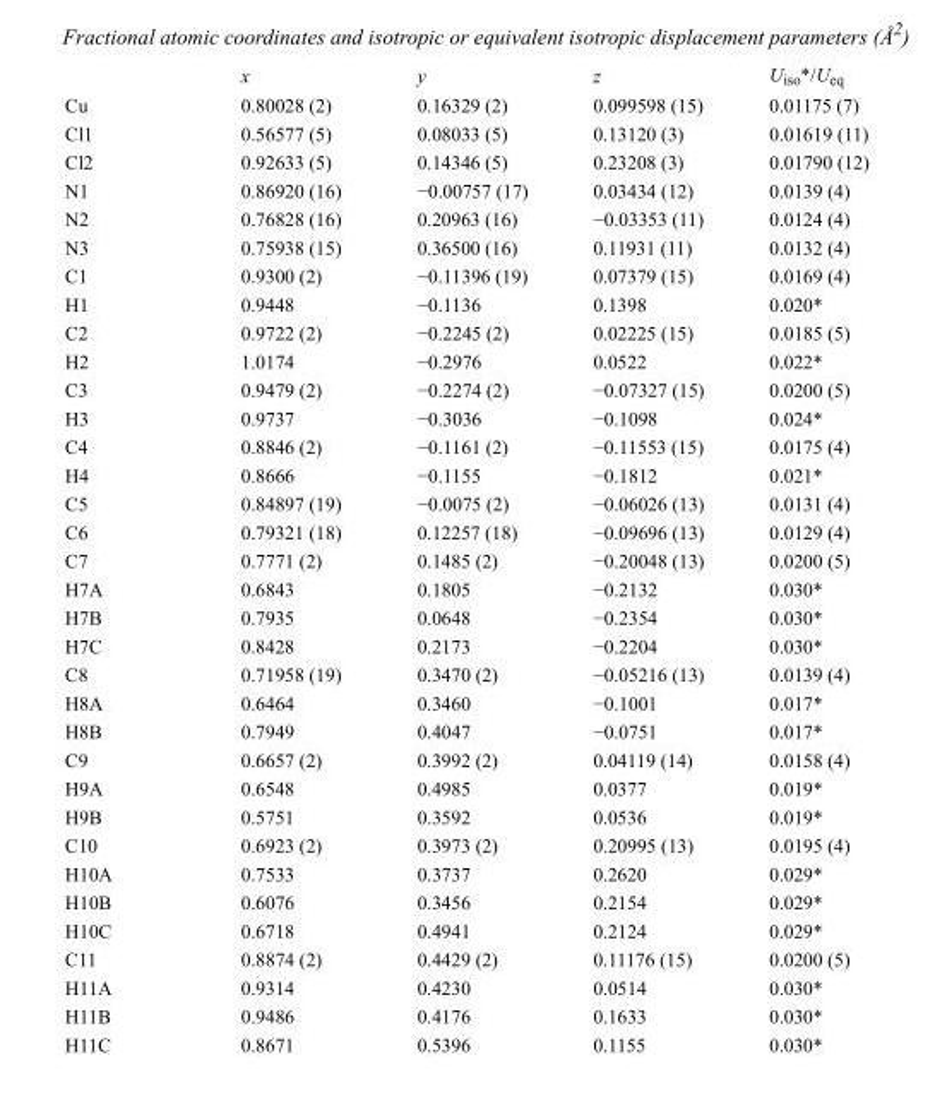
<table><thead><tr><td></td><td>x</td><td>y</td><td>z</td><td>U<sub>iso</sub>*/U<sub>eq</sub></td></tr></thead><tbody><tr><td>Cu</td><td>0.80028 (2)</td><td>0.16329 (2)</td><td>0.099598 (15)</td><td>0.01175 (7)</td></tr><tr><td>Cl1</td><td>0.56577 (5)</td><td>0.08033 (5)</td><td>0.13120 (3)</td><td>0.01619 (11)</td></tr><tr><td>Cl2</td><td>0.92633 (5)</td><td>0.14346 (5)</td><td>0.23208 (3)</td><td>0.01790 (12)</td></tr><tr><td>N1</td><td>0.86920 (16)</td><td>−0.00757 (17)</td><td>0.03434 (12)</td><td>0.0139 (4)</td></tr><tr><td>N2</td><td>0.76828 (16)</td><td>0.20963 (16)</td><td>−0.03353 (11)</td><td>0.0124 (4)</td></tr><tr><td>N3</td><td>0.75938 (15)</td><td>0.36500 (16)</td><td>0.11931 (11)</td><td>0.0132 (4)</td></tr><tr><td>C1</td><td>0.9300 (2)</td><td>−0.11396 (19)</td><td>0.07379 (15)</td><td>0.0169 (4)</td></tr><tr><td>H1</td><td>0.9448</td><td>−0.1136</td><td>0.1398</td><td>0.020*</td></tr><tr><td>C2</td><td>0.9722 (2)</td><td>−0.2245 (2)</td><td>0.02225 (15)</td><td>0.0185 (5)</td></tr><tr><td>H2</td><td>1.0174</td><td>−0.2976</td><td>0.0522</td><td>0.022*</td></tr><tr><td>C3</td><td>0.9479 (2)</td><td>−0.2274 (2)</td><td>−0.07327 (15)</td><td>0.0200 (5)</td></tr><tr><td>H3</td><td>0.9737</td><td>−0.3036</td><td>−0.1098</td><td>0.024*</td></tr><tr><td>C4</td><td>0.8846 (2)</td><td>−0.1161 (2)</td><td>−0.11553 (15)</td><td>0.0175 (4)</td></tr><tr><td>H4</td><td>0.8666</td><td>−0.1155</td><td>−0.1812</td><td>0.021*</td></tr><tr><td>C5</td><td>0.84897 (19)</td><td>−0.0075 (2)</td><td>−0.06026 (13)</td><td>0.0131 (4)</td></tr><tr><td>C6</td><td>0.79321 (18)</td><td>0.12257 (18)</td><td>−0.09696 (13)</td><td>0.0129 (4)</td></tr><tr><td>C7</td><td>0.7771 (2)</td><td>0.1485 (2)</td><td>−0.20048 (13)</td><td>0.0200 (5)</td></tr><tr><td>H7A</td><td>0.6843</td><td>0.1805</td><td>−0.2132</td><td>0.030*</td></tr><tr><td>H7B</td><td>0.7935</td><td>0.0648</td><td>−0.2354</td><td>0.030*</td></tr><tr><td>H7C</td><td>0.8428</td><td>0.2173</td><td>−0.2204</td><td>0.030*</td></tr><tr><td>C8</td><td>0.71958 (19)</td><td>0.3470 (2)</td><td>−0.05216 (13)</td><td>0.0139 (4)</td></tr><tr><td>H8A</td><td>0.6464</td><td>0.3460</td><td>−0.1001</td><td>0.017*</td></tr><tr><td>H8B</td><td>0.7949</td><td>0.4047</td><td>−0.0751</td><td>0.017*</td></tr><tr><td>C9</td><td>0.6657 (2)</td><td>0.3992 (2)</td><td>0.04119 (14)</td><td>0.0158 (4)</td></tr><tr><td>H9A</td><td>0.6548</td><td>0.4985</td><td>0.0377</td><td>0.019*</td></tr><tr><td>H9B</td><td>0.5751</td><td>0.3592</td><td>0.0536</td><td>0.019*</td></tr><tr><td>C10</td><td>0.6923 (2)</td><td>0.3973 (2)</td><td>0.20995 (13)</td><td>0.0195 (4)</td></tr><tr><td>H10A</td><td>0.7533</td><td>0.3737</td><td>0.2620</td><td>0.029*</td></tr><tr><td>H10B</td><td>0.6076</td><td>0.3456</td><td>0.2154</td><td>0.029*</td></tr><tr><td>H10C</td><td>0.6718</td><td>0.4941</td><td>0.2124</td><td>0.029*</td></tr><tr><td>C11</td><td>0.8874 (2)</td><td>0.4429 (2)</td><td>0.11176 (15)</td><td>0.0200 (5)</td></tr><tr><td>H11A</td><td>0.9314</td><td>0.4230</td><td>0.0514</td><td>0.030*</td></tr><tr><td>H11B</td><td>0.9486</td><td>0.4176</td><td>0.1633</td><td>0.030*</td></tr><tr><td>H11C</td><td>0.8671</td><td>0.5396</td><td>0.1155</td><td>0.030*</td></tr></tbody></table>